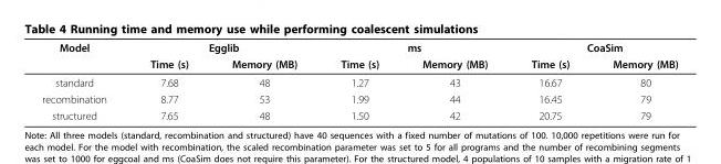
<table><thead><tr><td rowspan="2">Model</td><td colspan="2">Egglib</td><td colspan="2">ms</td><td colspan="2">CoaSim</td></tr><tr><td>Time (s)</td><td>Memory (MB)</td><td>Time (s)</td><td>Memory (MB)</td><td>Time (s)</td><td>Memory (MB)</td></tr></thead><tbody><tr><td>standard</td><td>7.68</td><td>48</td><td>1.27</td><td>43</td><td>16.67</td><td>80</td></tr><tr><td>recombination</td><td>8.77</td><td>53</td><td>1.99</td><td>44</td><td>16.45</td><td>79</td></tr><tr><td>structured</td><td>7.65</td><td>48</td><td>1.50</td><td>42</td><td>20.75</td><td>79</td></tr></tbody></table>